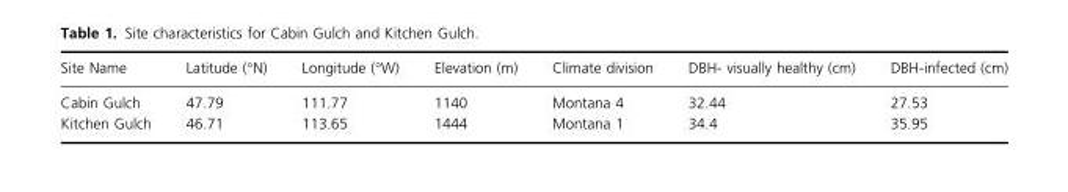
<table><thead><tr><td>Site Name</td><td>Latitude (°N)</td><td>Longitude (°W)</td><td>Elevation (m)</td><td>Climate division</td><td>DBH- visually healthy (cm)</td><td>DBH-infected (cm)</td></tr></thead><tbody><tr><td>Cabin Gulch</td><td>47.79</td><td>111.77</td><td>1140</td><td>Montana 4</td><td>32.44</td><td>27.53</td></tr><tr><td>Kitchen Gulch</td><td>46.71</td><td>113.65</td><td>1444</td><td>Montana 1</td><td>34.4</td><td>35.95</td></tr></tbody></table>